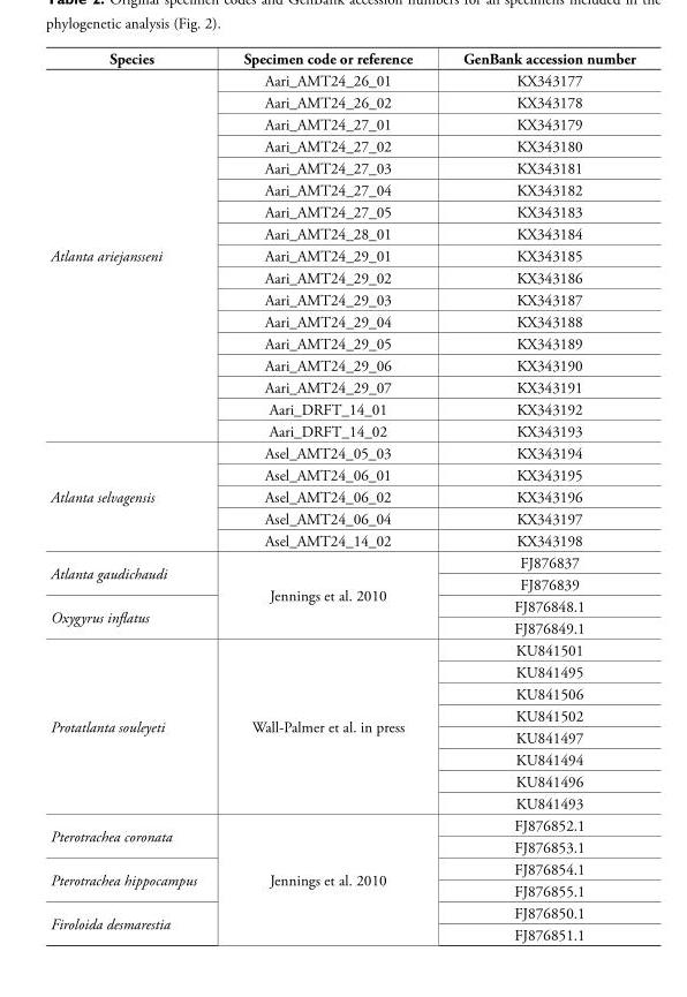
<table><thead><tr><td>Species</td><td>Specimen code or reference</td><td>GenBank accession number</td></tr></thead><tbody><tr><td rowspan="17">Atlanta ariejansseni</td><td>Aari_AMT24_26_01</td><td>KX343177</td></tr><tr><td>Aari_AMT24_26_02</td><td>KX343178</td></tr><tr><td>Aari_AMT24_27_01</td><td>KX343179</td></tr><tr><td>Aari_AMT24_27_02</td><td>KX343180</td></tr><tr><td>Aari_AMT24_27_03</td><td>KX343181</td></tr><tr><td>Aari_AMT24_27_04</td><td>KX343182</td></tr><tr><td>Aari_AMT24_27_05</td><td>KX343183</td></tr><tr><td>Aari_AMT24_28_01</td><td>KX343184</td></tr><tr><td>Aari_AMT24_29_01</td><td>KX343185</td></tr><tr><td>Aari_AMT24_29_02</td><td>KX343186</td></tr><tr><td>Aari_AMT24_29_03</td><td>KX343187</td></tr><tr><td>Aari_AMT24_29_04</td><td>KX343188</td></tr><tr><td>Aari_AMT24_29_05</td><td>KX343189</td></tr><tr><td>Aari_AMT24_29_06</td><td>KX343190</td></tr><tr><td>Aari_AMT24_29_07</td><td>KX343191</td></tr><tr><td>Aari_DRFT_14_01</td><td>KX343192</td></tr><tr><td>Aari_DRFT_14_02</td><td>KX343193</td></tr><tr><td rowspan="5">Atlanta selvagensis</td><td>Asel_AMT24_05_03</td><td>KX343194</td></tr><tr><td>Asel_AMT24_06_01</td><td>KX343195</td></tr><tr><td>Asel_AMT24_06_02</td><td>KX343196</td></tr><tr><td>Asel_AMT24_06_04</td><td>KX343197</td></tr><tr><td>Asel_AMT24_14_02</td><td>KX343198</td></tr><tr><td rowspan="2">Atlanta gaudichaudi</td><td rowspan="4">Jennings et al. 2010</td><td>FJ876837</td></tr><tr><td>FJ876839</td></tr><tr><td rowspan="2">Oxygyrus inflatus</td><td>FJ876848.1</td></tr><tr><td>FJ876849.1</td></tr><tr><td rowspan="8">Protatlanta souleyeti</td><td rowspan="8">Wall-Palmer et al. in press</td><td>KU841501</td></tr><tr><td>KU841495</td></tr><tr><td>KU841506</td></tr><tr><td>KU841502</td></tr><tr><td>KU841497</td></tr><tr><td>KU841494</td></tr><tr><td>KU841496</td></tr><tr><td>KU841493</td></tr><tr><td rowspan="2">Pterotrachea coronata</td><td rowspan="6">Jennings et al. 2010</td><td>FJ876852.1</td></tr><tr><td>FJ876853.1</td></tr><tr><td rowspan="2">Pterotrachea hippocampus</td><td>FJ876854.1</td></tr><tr><td>FJ876855.1</td></tr><tr><td rowspan="2">Firoloida desmarestia</td><td>FJ876850.1</td></tr><tr><td>FJ876851.1</td></tr></tbody></table>